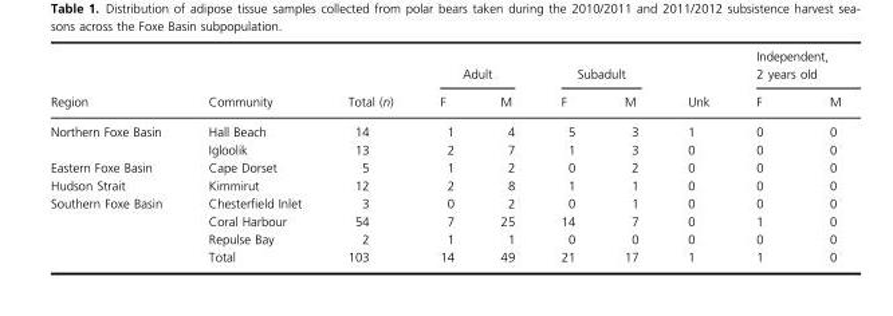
<table><thead><tr><td rowspan="2">Region</td><td rowspan="2">Community</td><td rowspan="2">Total (n)</td><td colspan="2">Adult</td><td colspan="2">Subadult</td><td rowspan="2">Unk</td><td colspan="2">Independent, 2 years old</td></tr><tr><td>F</td><td>M</td><td>F</td><td>M</td><td>F</td><td>M</td></tr></thead><tbody><tr><td rowspan="2">Northern Foxe Basin</td><td>Hall Beach</td><td>14</td><td>1</td><td>4</td><td>5</td><td>3</td><td>1</td><td>0</td><td>0</td></tr><tr><td>Igloolik</td><td>13</td><td>2</td><td>7</td><td>1</td><td>3</td><td>0</td><td>0</td><td>0</td></tr><tr><td>Eastern Foxe Basin</td><td>Cape Dorset</td><td>5</td><td>1</td><td>2</td><td>0</td><td>2</td><td>0</td><td>0</td><td>0</td></tr><tr><td>Hudson Strait</td><td>Kimmirut</td><td>12</td><td>2</td><td>8</td><td>1</td><td>1</td><td>0</td><td>0</td><td>0</td></tr><tr><td rowspan="4">Southern Foxe Basin</td><td>Chesterfield Inlet</td><td>3</td><td>0</td><td>2</td><td>0</td><td>1</td><td>0</td><td>0</td><td>0</td></tr><tr><td>Coral Harbour</td><td>54</td><td>7</td><td>25</td><td>14</td><td>7</td><td>0</td><td>1</td><td>0</td></tr><tr><td>Repulse Bay</td><td>2</td><td>1</td><td>1</td><td>0</td><td>0</td><td>0</td><td>0</td><td>0</td></tr><tr><td>Total</td><td>103</td><td>14</td><td>49</td><td>21</td><td>17</td><td>1</td><td>1</td><td>0</td></tr></tbody></table>